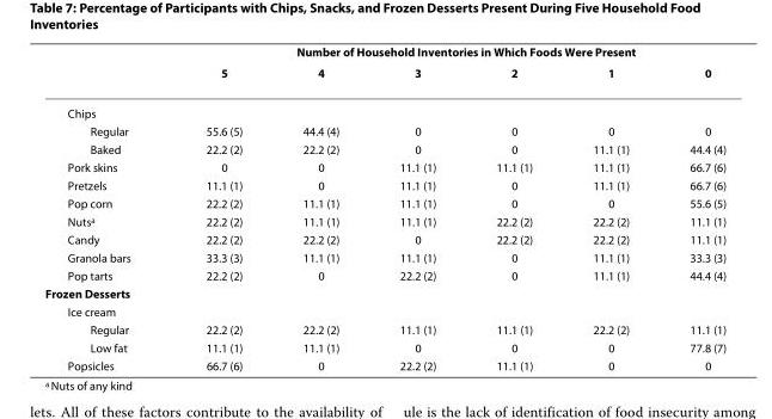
<table><thead><tr><td rowspan="2"></td><td colspan="6">Number of Household Inventories in Which Foods Were Present</td></tr><tr><td>5</td><td>4</td><td>3</td><td>2</td><td>1</td><td>0</td></tr></thead><tbody><tr><td colspan="7">Chips</td></tr><tr><td>Regular</td><td>55.6 (5)</td><td>44.4 (4)</td><td>0</td><td>0</td><td>0</td><td>0</td></tr><tr><td>Baked</td><td>22.2 (2)</td><td>22.2 (2)</td><td>0</td><td>0</td><td>11.1 (1)</td><td>44.4 (4)</td></tr><tr><td>Pork skins</td><td>0</td><td>0</td><td>11.1 (1)</td><td>11.1 (1)</td><td>11.1 (1)</td><td>66.7 (6)</td></tr><tr><td>Pretzels</td><td>11.1 (1)</td><td>0</td><td>11.1 (1)</td><td>0</td><td>11.1 (1)</td><td>66.7 (6)</td></tr><tr><td>Pop corn</td><td>22.2 (2)</td><td>11.1 (1)</td><td>11.1 (1)</td><td>0</td><td>0</td><td>55.6 (5)</td></tr><tr><td>Nuts<sup>a</sup></td><td>22.2 (2)</td><td>11.1 (1)</td><td>11.1 (1)</td><td>22.2 (2)</td><td>22.2 (2)</td><td>11.1 (1)</td></tr><tr><td>Candy</td><td>22.2 (2)</td><td>22.2 (2)</td><td>0</td><td>22.2 (2)</td><td>22.2 (2)</td><td>11.1 (1)</td></tr><tr><td>Granola bars</td><td>33.3 (3)</td><td>11.1 (1)</td><td>11.1 (1)</td><td>0</td><td>11.1 (1)</td><td>33.3 (3)</td></tr><tr><td>Pop tarts</td><td>22.2 (2)</td><td>0</td><td>22.2 (2)</td><td>0</td><td>11.1 (1)</td><td>44.4 (4)</td></tr><tr><td colspan="7">Frozen Desserts</td></tr><tr><td colspan="7">Ice cream</td></tr><tr><td>Regular</td><td>22.2 (2)</td><td>22.2 (2)</td><td>11.1 (1)</td><td>11.1 (1)</td><td>22.2 (2)</td><td>11.1 (1)</td></tr><tr><td>Low fat</td><td>11.1 (1)</td><td>11.1 (1)</td><td>0</td><td>0</td><td>0</td><td>77.8 (7)</td></tr><tr><td>Popsicles</td><td>66.7 (6)</td><td>0</td><td>22.2 (2)</td><td>11.1 (1)</td><td>0</td><td>0</td></tr></tbody></table>